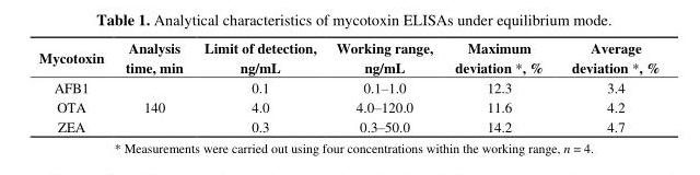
<table><thead><tr><td>Mycotoxin</td><td>Analysis time, min</td><td>Limit of detection, ng/mL</td><td>Working range, ng/mL</td><td>Maximum deviation *, %</td><td>Average deviation *, %</td></tr></thead><tbody><tr><td>AFB1</td><td rowspan="3">140</td><td>0.1</td><td>0.1–1.0</td><td>12.3</td><td>3.4</td></tr><tr><td>OTA</td><td>4.0</td><td>4.0–120.0</td><td>11.6</td><td>4.2</td></tr><tr><td>ZEA</td><td>0.3</td><td>0.3–50.0</td><td>14.2</td><td>4.7</td></tr></tbody></table>